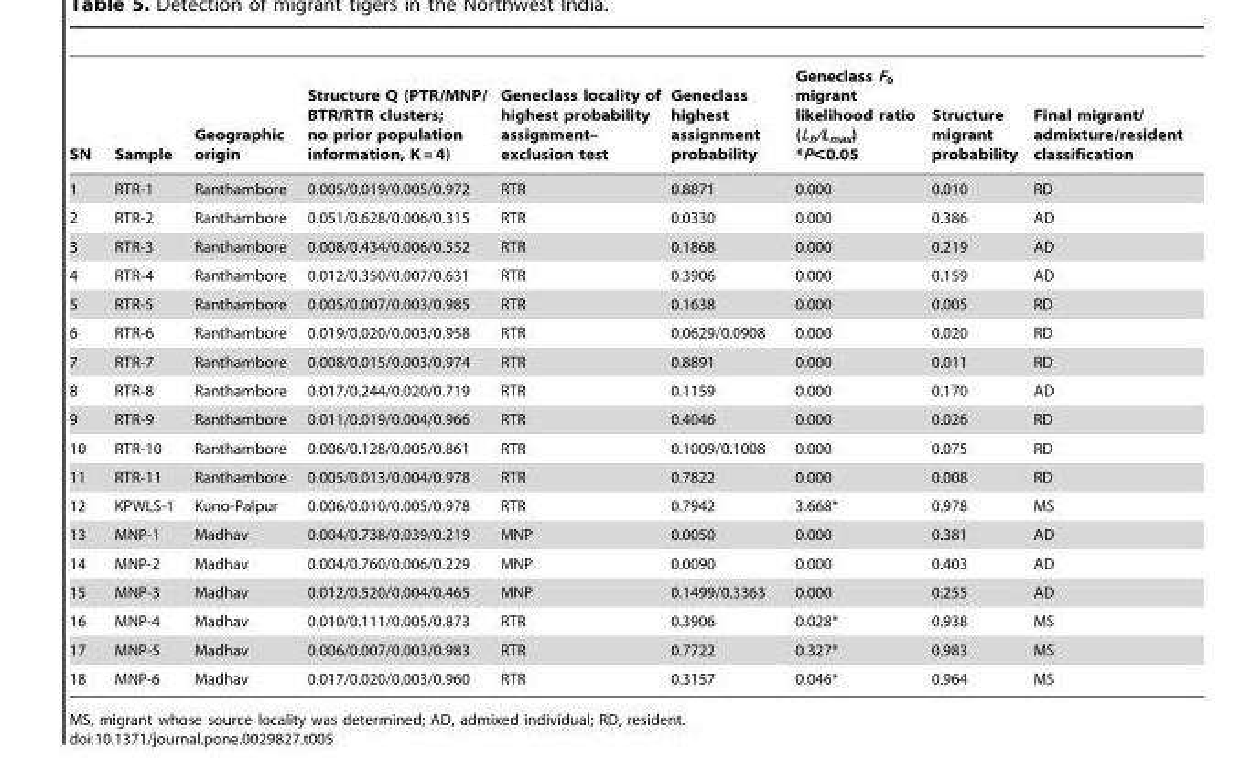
<table><thead><tr><td>SN</td><td>Sample</td><td>Geographic origin</td><td>Structure Q (PTR/MNP/ BTR/RTR clusters; no prior population information, K = 4)</td><td>Geneclass locality of highest probability assignment– exclusion test</td><td>Geneclass highest assignment probability</td><td>Geneclass F<sub>0</sub> migrant likelihood ratio (L<sub>h</sub>/L<sub>max</sub>) *P&lt;0.05</td><td>Structure migrant probability</td><td>Final migrant/ admixture/resident classification</td></tr></thead><tbody><tr><td>1</td><td>RTR-1</td><td>Ranthambore</td><td>0.005/0.019/0.005/0.972</td><td>RTR</td><td>0.8871</td><td>0.000</td><td>0.010</td><td>RD</td></tr><tr><td>2</td><td>RTR-2</td><td>Ranthambore</td><td>0.051/0.628/0.006/0.315</td><td>RTR</td><td>0.0330</td><td>0.000</td><td>0.386</td><td>AD</td></tr><tr><td>3</td><td>RTR-3</td><td>Ranthambore</td><td>0.008/0.434/0.006/0.552</td><td>RTR</td><td>0.1868</td><td>0.000</td><td>0.219</td><td>AD</td></tr><tr><td>4</td><td>RTR-4</td><td>Ranthambore</td><td>0.012/0.350/0.007/0.631</td><td>RTR</td><td>0.3906</td><td>0.000</td><td>0.159</td><td>AD</td></tr><tr><td>5</td><td>RTR-5</td><td>Ranthambore</td><td>0.005/0.007/0.003/0.985</td><td>RTR</td><td>0.1638</td><td>0.000</td><td>0.005</td><td>RD</td></tr><tr><td>6</td><td>RTR-6</td><td>Ranthambore</td><td>0.019/0.020/0.003/0.958</td><td>RTR</td><td>0.0629/0.0908</td><td>0.000</td><td>0.020</td><td>RD</td></tr><tr><td>7</td><td>RTR-7</td><td>Ranthambore</td><td>0.008/0.015/0.003/0.974</td><td>RTR</td><td>0.8891</td><td>0.000</td><td>0.011</td><td>RD</td></tr><tr><td>8</td><td>RTR-8</td><td>Ranthambore</td><td>0.017/0.244/0.020/0.719</td><td>RTR</td><td>0.1159</td><td>0.000</td><td>0.170</td><td>AD</td></tr><tr><td>9</td><td>RTR-9</td><td>Ranthambore</td><td>0.011/0.019/0.004/0.966</td><td>RTR</td><td>0.4046</td><td>0.000</td><td>0.026</td><td>RD</td></tr><tr><td>10</td><td>RTR-10</td><td>Ranthambore</td><td>0.006/0.128/0.005/0.861</td><td>RTR</td><td>0.1009/0.1008</td><td>0.000</td><td>0.075</td><td>RD</td></tr><tr><td>11</td><td>RTR-11</td><td>Ranthambore</td><td>0.005/0.013/0.004/0.978</td><td>RTR</td><td>0.7822</td><td>0.000</td><td>0.008</td><td>RD</td></tr><tr><td>12</td><td>KPWLS-1</td><td>Kuno-Palpur</td><td>0.006/0.010/0.005/0.978</td><td>RTR</td><td>0.7942</td><td>3.668*</td><td>0.978</td><td>MS</td></tr><tr><td>13</td><td>MNP-1</td><td>Madhav</td><td>0.004/0.738/0.039/0.219</td><td>MNP</td><td>0.0050</td><td>0.000</td><td>0.381</td><td>AD</td></tr><tr><td>14</td><td>MNP-2</td><td>Madhav</td><td>0.004/0.760/0.006/0.229</td><td>MNP</td><td>0.0090</td><td>0.000</td><td>0.403</td><td>AD</td></tr><tr><td>15</td><td>MNP-3</td><td>Madhav</td><td>0.012/0.520/0.004/0.465</td><td>MNP</td><td>0.1499/0.3363</td><td>0.000</td><td>0.255</td><td>AD</td></tr><tr><td>16</td><td>MNP-4</td><td>Madhav</td><td>0.010/0.111/0.005/0.873</td><td>RTR</td><td>0.3906</td><td>0.028*</td><td>0.938</td><td>MS</td></tr><tr><td>17</td><td>MNP-5</td><td>Madhav</td><td>0.006/0.007/0.003/0.983</td><td>RTR</td><td>0.7722</td><td>0.327*</td><td>0.983</td><td>MS</td></tr><tr><td>18</td><td>MNP-6</td><td>Madhav</td><td>0.017/0.020/0.003/0.960</td><td>RTR</td><td>0.3157</td><td>0.046*</td><td>0.964</td><td>MS</td></tr></tbody></table>